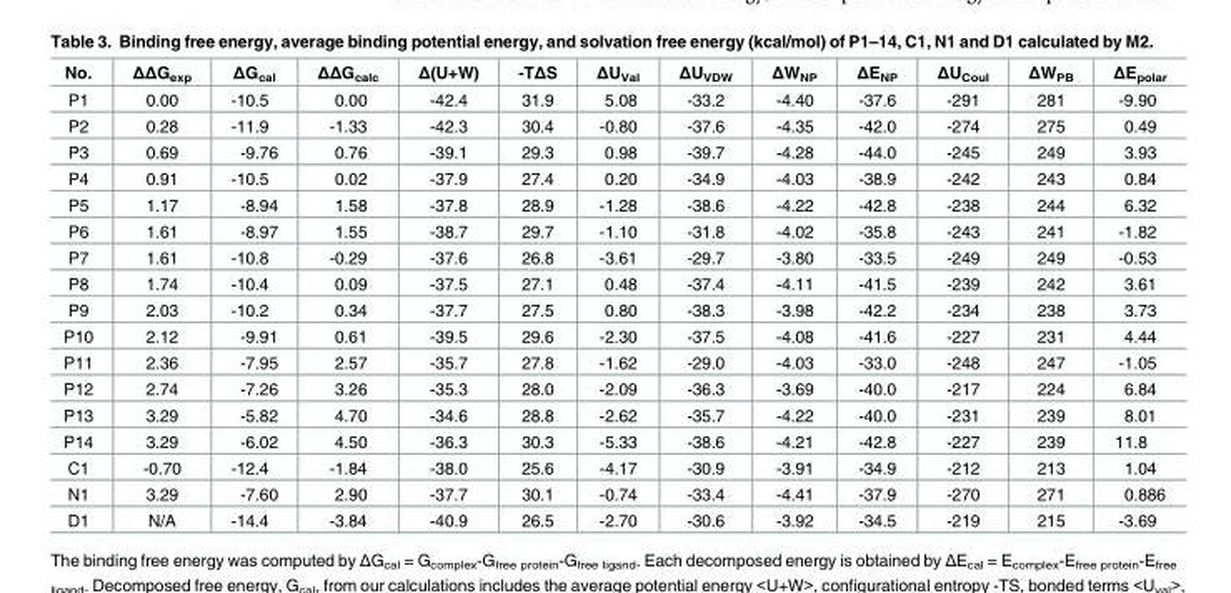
<table><thead><tr><td>No.</td><td>ΔΔG<sub>exp</sub></td><td>ΔG<sub>cal</sub></td><td>ΔΔG<sub>calc</sub></td><td>Δ(U+W)</td><td>-TΔS</td><td>ΔU<sub>Val</sub></td><td>ΔU<sub>VDW</sub></td><td>ΔW<sub>NP</sub></td><td>ΔE<sub>NP</sub></td><td>ΔU<sub>Coul</sub></td><td>ΔW<sub>PB</sub></td><td>ΔE<sub>polar</sub></td></tr></thead><tbody><tr><td>P1</td><td>0.00</td><td>-10.5</td><td>0.00</td><td>-42.4</td><td>31.9</td><td>5.08</td><td>-33.2</td><td>-4.40</td><td>-37.6</td><td>-291</td><td>281</td><td>-9.90</td></tr><tr><td>P2</td><td>0.28</td><td>-11.9</td><td>-1.33</td><td>-42.3</td><td>30.4</td><td>-0.80</td><td>-37.6</td><td>-4.35</td><td>-42.0</td><td>-274</td><td>275</td><td>0.49</td></tr><tr><td>P3</td><td>0.69</td><td>-9.76</td><td>0.76</td><td>-39.1</td><td>29.3</td><td>0.98</td><td>-39.7</td><td>-4.28</td><td>-44.0</td><td>-245</td><td>249</td><td>3.93</td></tr><tr><td>P4</td><td>0.91</td><td>-10.5</td><td>0.02</td><td>-37.9</td><td>27.4</td><td>0.20</td><td>-34.9</td><td>-4.03</td><td>-38.9</td><td>-242</td><td>243</td><td>0.84</td></tr><tr><td>P5</td><td>1.17</td><td>-8.94</td><td>1.58</td><td>-37.8</td><td>28.9</td><td>-1.28</td><td>-38.6</td><td>-4.22</td><td>-42.8</td><td>-238</td><td>244</td><td>6.32</td></tr><tr><td>P6</td><td>1.61</td><td>-8.97</td><td>1.55</td><td>-38.7</td><td>29.7</td><td>-1.10</td><td>-31.8</td><td>-4.02</td><td>-35.8</td><td>-243</td><td>241</td><td>-1.82</td></tr><tr><td>P7</td><td>1.61</td><td>-10.8</td><td>-0.29</td><td>-37.6</td><td>26.8</td><td>-3.61</td><td>-29.7</td><td>-3.80</td><td>-33.5</td><td>-249</td><td>249</td><td>-0.53</td></tr><tr><td>P8</td><td>1.74</td><td>-10.4</td><td>0.09</td><td>-37.5</td><td>27.1</td><td>0.48</td><td>-37.4</td><td>-4.11</td><td>-41.5</td><td>-239</td><td>242</td><td>3.61</td></tr><tr><td>P9</td><td>2.03</td><td>-10.2</td><td>0.34</td><td>-37.7</td><td>27.5</td><td>0.80</td><td>-38.3</td><td>-3.98</td><td>-42.2</td><td>-234</td><td>238</td><td>3.73</td></tr><tr><td>P10</td><td>2.12</td><td>-9.91</td><td>0.61</td><td>-39.5</td><td>29.6</td><td>-2.30</td><td>-37.5</td><td>-4.08</td><td>-41.6</td><td>-227</td><td>231</td><td>4.44</td></tr><tr><td>P11</td><td>2.36</td><td>-7.95</td><td>2.57</td><td>-35.7</td><td>27.8</td><td>-1.62</td><td>-29.0</td><td>-4.03</td><td>-33.0</td><td>-248</td><td>247</td><td>-1.05</td></tr><tr><td>P12</td><td>2.74</td><td>-7.26</td><td>3.26</td><td>-35.3</td><td>28.0</td><td>-2.09</td><td>-36.3</td><td>-3.69</td><td>-40.0</td><td>-217</td><td>224</td><td>6.84</td></tr><tr><td>P13</td><td>3.29</td><td>-5.82</td><td>4.70</td><td>-34.6</td><td>28.8</td><td>-2.62</td><td>-35.7</td><td>-4.22</td><td>-40.0</td><td>-231</td><td>239</td><td>8.01</td></tr><tr><td>P14</td><td>3.29</td><td>-6.02</td><td>4.50</td><td>-36.3</td><td>30.3</td><td>-5.33</td><td>-38.6</td><td>-4.21</td><td>-42.8</td><td>-227</td><td>239</td><td>11.8</td></tr><tr><td>C1</td><td>-0.70</td><td>-12.4</td><td>-1.84</td><td>-38.0</td><td>25.6</td><td>-4.17</td><td>-30.9</td><td>-3.91</td><td>-34.9</td><td>-212</td><td>213</td><td>1.04</td></tr><tr><td>N1</td><td>3.29</td><td>-7.60</td><td>2.90</td><td>-37.7</td><td>30.1</td><td>-0.74</td><td>-33.4</td><td>-4.41</td><td>-37.9</td><td>-270</td><td>271</td><td>0.886</td></tr><tr><td>D1</td><td>N/A</td><td>-14.4</td><td>-3.84</td><td>-40.9</td><td>26.5</td><td>-2.70</td><td>-30.6</td><td>-3.92</td><td>-34.5</td><td>-219</td><td>215</td><td>-3.69</td></tr></tbody></table>